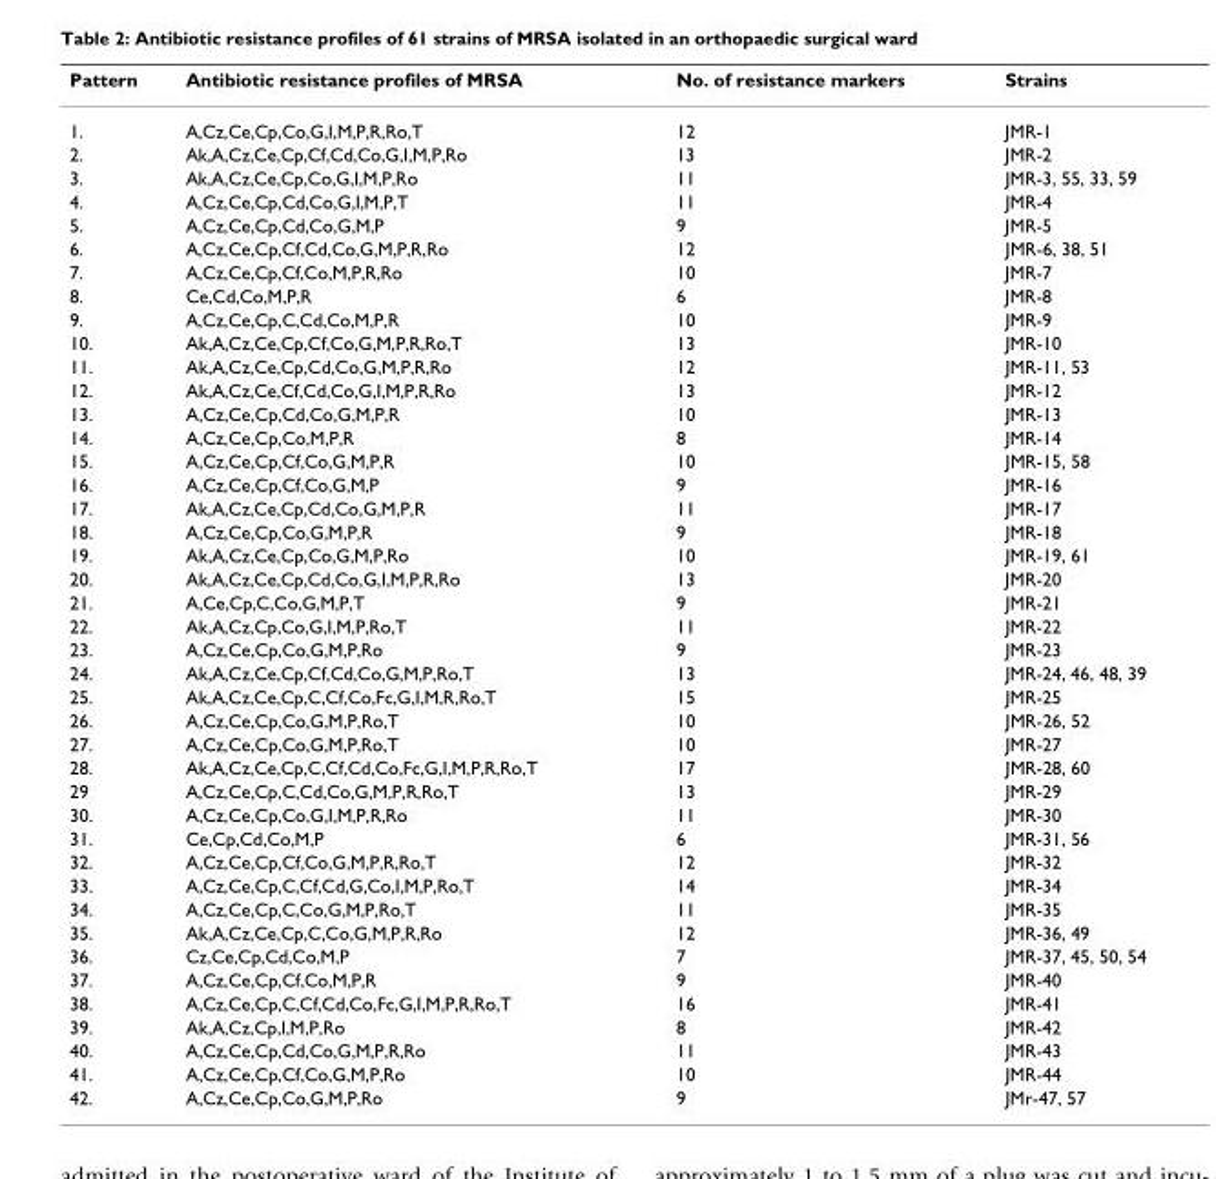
<table><thead><tr><td>Pattern</td><td>Antibiotic resistance profiles of MRSA</td><td>No. of resistance markers</td><td>Strains</td></tr></thead><tbody><tr><td>1.</td><td>A,Cz,Ce,Cp,Co,G,I,M,P,R,Ro,T</td><td>12</td><td>JMR-1</td></tr><tr><td>2.</td><td>Ak,A,Cz,Ce,Cp,Cf,Cd,Co,G,I,M,P,Ro</td><td>13</td><td>JMR-2</td></tr><tr><td>3.</td><td>Ak,A,Cz,Ce,Cp,Co,G,I,M,P,Ro</td><td>11</td><td>JMR-3, 55, 33, 59</td></tr><tr><td>4.</td><td>A,Cz,Ce,Cp,Cd,Co,G,I,M,P,T</td><td>11</td><td>JMR-4</td></tr><tr><td>5.</td><td>A,Cz,Ce,Cp,Cd,Co,G,M,P</td><td>9</td><td>JMR-5</td></tr><tr><td>6.</td><td>A,Cz,Ce,Cp,Cf,Cd,Co,G,M,P,R,Ro</td><td>12</td><td>JMR-6, 38, 51</td></tr><tr><td>7.</td><td>A,Cz,Ce,Cp,Cf,Co,M,P,R,Ro</td><td>10</td><td>JMR-7</td></tr><tr><td>8.</td><td>Ce,Cd,Co,M,P,R</td><td>6</td><td>JMR-8</td></tr><tr><td>9.</td><td>A,Cz,Ce,Cp,C,Cd,Co,M,P,R</td><td>10</td><td>JMR-9</td></tr><tr><td>10.</td><td>Ak,A,Cz,Ce,Cp,Cf,Co,G,M,P,R,Ro,T</td><td>13</td><td>JMR-10</td></tr><tr><td>11.</td><td>Ak,A,Cz,Ce,Cp,Cd,Co,G,M,P,R,Ro</td><td>12</td><td>JMR-11, 53</td></tr><tr><td>12.</td><td>Ak,A,Cz,Ce,Cf,Cd,Co,G,I,M,P,R,Ro</td><td>13</td><td>JMR-12</td></tr><tr><td>13.</td><td>A,Cz,Ce,Cp,Cd,Co,G,M,P,R</td><td>10</td><td>JMR-13</td></tr><tr><td>14.</td><td>A,Cz,Ce,Cp,Co,M,P,R</td><td>8</td><td>JMR-14</td></tr><tr><td>15.</td><td>A,Cz,Ce,Cp,Cf,Co,G,M,P,R</td><td>10</td><td>JMR-15, 58</td></tr><tr><td>16.</td><td>A,Cz,Ce,Cp,Cf,Co,G,M,P</td><td>9</td><td>JMR-16</td></tr><tr><td>17.</td><td>Ak,A,Cz,Ce,Cp,Cd,Co,G,M,P,R</td><td>11</td><td>JMR-17</td></tr><tr><td>18.</td><td>A,Cz,Ce,Cp,Co,G,M,P,R</td><td>9</td><td>JMR-18</td></tr><tr><td>19.</td><td>Ak,A,Cz,Ce,Cp,Co,G,M,P,Ro</td><td>10</td><td>JMR-19, 61</td></tr><tr><td>20.</td><td>Ak,A,Cz,Ce,Cp,Cd,Co,G,I,M,P,R,Ro</td><td>13</td><td>JMR-20</td></tr><tr><td>21.</td><td>A,Ce,Cp,C,Co,G,M,P,T</td><td>9</td><td>JMR-21</td></tr><tr><td>22.</td><td>Ak,A,Cz,Cp,Co,G,I,M,P,Ro,T</td><td>11</td><td>JMR-22</td></tr><tr><td>23.</td><td>A,Cz,Ce,Cp,Co,G,M,P,Ro</td><td>9</td><td>JMR-23</td></tr><tr><td>24.</td><td>Ak,A,Cz,Ce,Cp,Cf,Cd,Co,G,M,P,Ro,T</td><td>13</td><td>JMR-24, 46, 48, 39</td></tr><tr><td>25.</td><td>Ak,A,Cz,Ce,Cp,C,Cf,Co,Fc,G,I,M,R,Ro,T</td><td>15</td><td>JMR-25</td></tr><tr><td>26.</td><td>A,Cz,Ce,Cp,Co,G,M,P,Ro,T</td><td>10</td><td>JMR-26, 52</td></tr><tr><td>27.</td><td>A,Cz,Ce,Cp,Co,G,M,P,Ro,T</td><td>10</td><td>JMR-27</td></tr><tr><td>28.</td><td>Ak,A,Cz,Ce,Cp,C,Cf,Cd,Co,Fc,G,I,M,P,R,Ro,T</td><td>17</td><td>JMR-28, 60</td></tr><tr><td>29</td><td>A,Cz,Ce,Cp,C,Cd,Co,G,M,P,R,Ro,T</td><td>13</td><td>JMR-29</td></tr><tr><td>30.</td><td>A,Cz,Ce,Cp,Co,G,I,M,P,R,Ro</td><td>11</td><td>JMR-30</td></tr><tr><td>31.</td><td>Ce,Cp,Cd,Co,M,P</td><td>6</td><td>JMR-31, 56</td></tr><tr><td>32.</td><td>A,Cz,Ce,Cp,Cf,Co,G,M,P,R,Ro,T</td><td>12</td><td>JMR-32</td></tr><tr><td>33.</td><td>A,Cz,Ce,Cp,C,Cf,Cd,G,Co,I,M,P,Ro,T</td><td>14</td><td>JMR-34</td></tr><tr><td>34.</td><td>A,Cz,Ce,Cp,C,Co,G,M,P,Ro,T</td><td>11</td><td>JMR-35</td></tr><tr><td>35.</td><td>Ak,A,Cz,Ce,Cp,C,Co,G,M,P,R,Ro</td><td>12</td><td>JMR-36, 49</td></tr><tr><td>36.</td><td>Cz,Ce,Cp,Cd,Co,M,P</td><td>7</td><td>JMR-37, 45, 50, 54</td></tr><tr><td>37.</td><td>A,Cz,Ce,Cp,Cf,Co,M,P,R</td><td>9</td><td>JMR-40</td></tr><tr><td>38.</td><td>A,Cz,Ce,Cp,C,Cf,Cd,Co,Fc,G,I,M,P,R,Ro,T</td><td>16</td><td>JMR-41</td></tr><tr><td>39.</td><td>Ak,A,Cz,Cp,I,M,P,Ro</td><td>8</td><td>JMR-42</td></tr><tr><td>40.</td><td>A,Cz,Ce,Cp,Cd,Co,G,M,P,R,Ro</td><td>11</td><td>JMR-43</td></tr><tr><td>41.</td><td>A,Cz,Ce,Cp,Cf,Co,G,M,P,Ro</td><td>10</td><td>JMR-44</td></tr><tr><td>42.</td><td>A,Cz,Ce,Cp,Co,G,M,P,Ro</td><td>9</td><td>JMr-47, 57</td></tr></tbody></table>